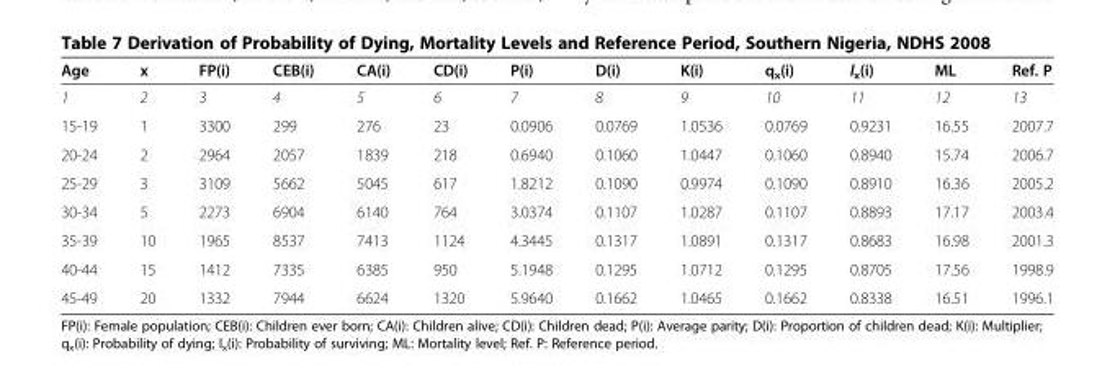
<table><thead><tr><td>Age</td><td>x</td><td>FP(i)</td><td>CEB(i)</td><td>CA(i)</td><td>CD(i)</td><td>P(i)</td><td>D(i)</td><td>K(i)</td><td>q<sub>x</sub>(i)</td><td>l<sub>x</sub>(i)</td><td>ML</td><td>Ref. P</td></tr></thead><tbody><tr><td>1</td><td>2</td><td>3</td><td>4</td><td>5</td><td>6</td><td>7</td><td>8</td><td>9</td><td>10</td><td>11</td><td>12</td><td>13</td></tr><tr><td>15-19</td><td>1</td><td>3300</td><td>299</td><td>276</td><td>23</td><td>0.0906</td><td>0.0769</td><td>1.0536</td><td>0.0769</td><td>0.9231</td><td>16.55</td><td>2007.7</td></tr><tr><td>20-24</td><td>2</td><td>2964</td><td>2057</td><td>1839</td><td>218</td><td>0.6940</td><td>0.1060</td><td>1.0447</td><td>0.1060</td><td>0.8940</td><td>15.74</td><td>2006.7</td></tr><tr><td>25-29</td><td>3</td><td>3109</td><td>5662</td><td>5045</td><td>617</td><td>1.8212</td><td>0.1090</td><td>0.9974</td><td>0.1090</td><td>0.8910</td><td>16.36</td><td>2005.2</td></tr><tr><td>30-34</td><td>5</td><td>2273</td><td>6904</td><td>6140</td><td>764</td><td>3.0374</td><td>0.1107</td><td>1.0287</td><td>0.1107</td><td>0.8893</td><td>17.17</td><td>2003.4</td></tr><tr><td>35-39</td><td>10</td><td>1965</td><td>8537</td><td>7413</td><td>1124</td><td>4.3445</td><td>0.1317</td><td>1.0891</td><td>0.1317</td><td>0.8683</td><td>16.98</td><td>2001.3</td></tr><tr><td>40-44</td><td>15</td><td>1412</td><td>7335</td><td>6385</td><td>950</td><td>5.1948</td><td>0.1295</td><td>1.0712</td><td>0.1295</td><td>0.8705</td><td>17.56</td><td>1998.9</td></tr><tr><td>45-49</td><td>20</td><td>1332</td><td>7944</td><td>6624</td><td>1320</td><td>5.9640</td><td>0.1662</td><td>1.0465</td><td>0.1662</td><td>0.8338</td><td>16.51</td><td>1996.1</td></tr></tbody></table>